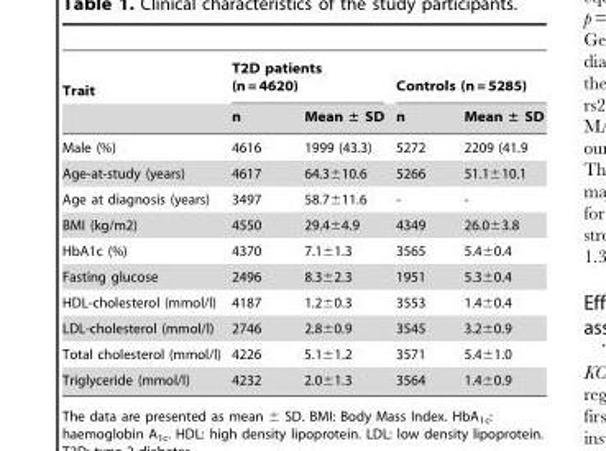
<table><thead><tr><td rowspan="2">Trait</td><td colspan="2">T2D patients (n = 4620)</td><td colspan="2">Controls (n = 5285)</td></tr><tr><td>n</td><td>Mean ± SD</td><td>n</td><td>Mean ± SD</td></tr></thead><tbody><tr><td>Male (%)</td><td>4616</td><td>1999 (43.3)</td><td>5272</td><td>2209 (41.9</td></tr><tr><td>Age-at-study (years)</td><td>4617</td><td>64.3±10.6</td><td>5266</td><td>51.1±10.1</td></tr><tr><td>Age at diagnosis (years)</td><td>3497</td><td>58.7±11.6</td><td>-</td><td>-</td></tr><tr><td>BMI (kg/m2)</td><td>4550</td><td>29.4±4.9</td><td>4349</td><td>26.0±3.8</td></tr><tr><td>HbA1c (%)</td><td>4370</td><td>7.1±1.3</td><td>3565</td><td>5.4±0.4</td></tr><tr><td>Fasting glucose</td><td>2496</td><td>8.3±2.3</td><td>1951</td><td>5.3±0.4</td></tr><tr><td>HDL-cholesterol (mmol/l)</td><td>4187</td><td>1.2±0.3</td><td>3553</td><td>1.4±0.4</td></tr><tr><td>LDL-cholesterol (mmol/l)</td><td>2746</td><td>2.8±0.9</td><td>3545</td><td>3.2±0.9</td></tr><tr><td>Total cholesterol (mmol/l)</td><td>4226</td><td>5.1±1.2</td><td>3571</td><td>5.4±1.0</td></tr><tr><td>Triglyceride (mmol/l)</td><td>4232</td><td>2.0±1.3</td><td>3564</td><td>1.4±0.9</td></tr></tbody></table>